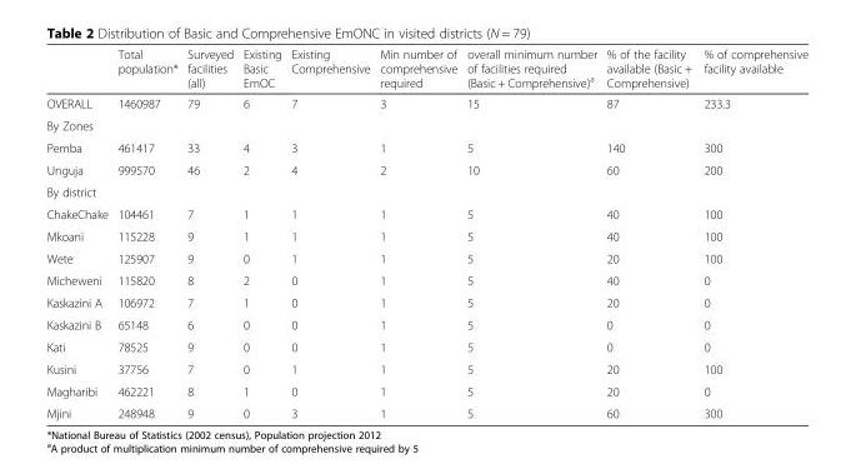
<table><thead><tr><td></td><td>Total population*</td><td>Surveyed facilities (all)</td><td>Existing Basic EmOC</td><td>Existing Comprehensive</td><td>Min number of comprehensive required</td><td>overall minimum number of facilities required (Basic + Comprehensive)<sup>a</sup></td><td>% of the facility available (Basic + Comprehensive)</td><td>% of comprehensive facility available</td></tr></thead><tbody><tr><td>OVERALL</td><td>1460987</td><td>79</td><td>6</td><td>7</td><td>3</td><td>15</td><td>87</td><td>233.3</td></tr><tr><td colspan="9">By Zones</td></tr><tr><td>Pemba</td><td>461417</td><td>33</td><td>4</td><td>3</td><td>1</td><td>5</td><td>140</td><td>300</td></tr><tr><td>Unguja</td><td>999570</td><td>46</td><td>2</td><td>4</td><td>2</td><td>10</td><td>60</td><td>200</td></tr><tr><td colspan="9">By district</td></tr><tr><td>ChakeChake</td><td>104461</td><td>7</td><td>1</td><td>1</td><td>1</td><td>5</td><td>40</td><td>100</td></tr><tr><td>Mkoani</td><td>115228</td><td>9</td><td>1</td><td>1</td><td>1</td><td>5</td><td>40</td><td>100</td></tr><tr><td>Wete</td><td>125907</td><td>9</td><td>0</td><td>1</td><td>1</td><td>5</td><td>20</td><td>100</td></tr><tr><td>Micheweni</td><td>115820</td><td>8</td><td>2</td><td>0</td><td>1</td><td>5</td><td>40</td><td>0</td></tr><tr><td>Kaskazini A</td><td>106972</td><td>7</td><td>1</td><td>0</td><td>1</td><td>5</td><td>20</td><td>0</td></tr><tr><td>Kaskazini B</td><td>65148</td><td>6</td><td>0</td><td>0</td><td>1</td><td>5</td><td>0</td><td>0</td></tr><tr><td>Kati</td><td>78525</td><td>9</td><td>0</td><td>0</td><td>1</td><td>5</td><td>0</td><td>0</td></tr><tr><td>Kusini</td><td>37756</td><td>7</td><td>0</td><td>1</td><td>1</td><td>5</td><td>20</td><td>100</td></tr><tr><td>Magharibi</td><td>462221</td><td>8</td><td>1</td><td>0</td><td>1</td><td>5</td><td>20</td><td>0</td></tr><tr><td>Mjini</td><td>248948</td><td>9</td><td>0</td><td>3</td><td>1</td><td>5</td><td>60</td><td>300</td></tr></tbody></table>